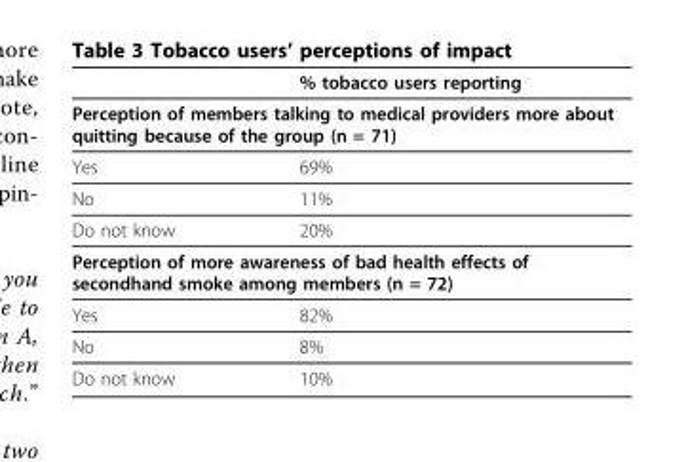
<table><thead><tr><td></td><td>% tobacco users reporting</td></tr></thead><tbody><tr><td colspan="2">Perception of members talking to medical providers more about quitting because of the group (n = 71)</td></tr><tr><td>Yes</td><td>69%</td></tr><tr><td>No</td><td>11%</td></tr><tr><td>Do not know</td><td>20%</td></tr><tr><td colspan="2">Perception of more awareness of bad health effects of secondhand smoke among members (n = 72)</td></tr><tr><td>Yes</td><td>82%</td></tr><tr><td>No</td><td>8%</td></tr><tr><td>Do not know</td><td>10%</td></tr></tbody></table>